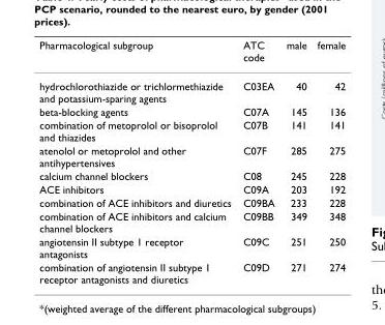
<table><thead><tr><td>Pharmacological subgroup</td><td>ATC code</td><td>male</td><td>female</td></tr></thead><tbody><tr><td>hydrochlorothiazide or trichlormethiazide and potassium-sparing agents</td><td>C03EA</td><td>40</td><td>42</td></tr><tr><td>beta-blocking agents</td><td>C07A</td><td>145</td><td>136</td></tr><tr><td>combination of metoprolol or bisoprolol and thiazides</td><td>C07B</td><td>141</td><td>141</td></tr><tr><td>atenolol or metoprolol and other antihypertensives</td><td>C07F</td><td>285</td><td>275</td></tr><tr><td>calcium channel blockers</td><td>C08</td><td>245</td><td>228</td></tr><tr><td>ACE inhibitors</td><td>C09A</td><td>203</td><td>192</td></tr><tr><td>combination of ACE inhibitors and diuretics</td><td>C09BA</td><td>233</td><td>228</td></tr><tr><td>combination of ACE inhibitors and calcium channel blockers</td><td>C09BB</td><td>349</td><td>348</td></tr><tr><td>angiotensin II subtype 1 receptor antagonists</td><td>C09C</td><td>251</td><td>250</td></tr><tr><td>combination of angiotensin II subtype 1 receptor antagonists and diuretics</td><td>C09D</td><td>271</td><td>274</td></tr></tbody></table>